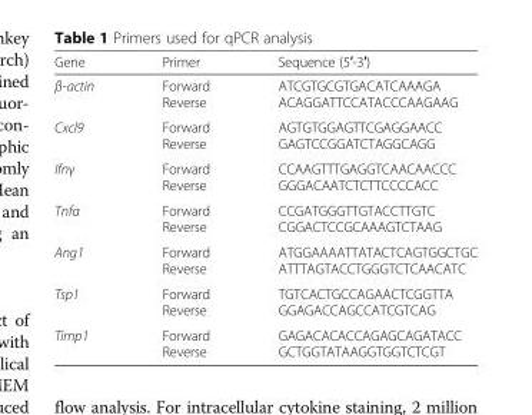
<table><thead><tr><td>Gene</td><td>Primer</td><td>Sequence (5′-3′)</td></tr></thead><tbody><tr><td>β-actin</td><td>Forward Reverse</td><td>ATCGTGCGTGACATCAAAGA ACAGGATTCCATACCCAAGAAG</td></tr><tr><td>Cxcl9</td><td>Forward Reverse</td><td>AGTGTGGAGTTCGAGGAACC GAGTCCGGATCTAGGCAGG</td></tr><tr><td>Ifnγ</td><td>Forward Reverse</td><td>CCAAGTTTGAGGTCAACAACCC GGGACAATCTCTTCCCCACC</td></tr><tr><td>Tnfα</td><td>Forward Reverse</td><td>CCGATGGGTTGTACCTTGTC CGGACTCCGCAAAGTCTAAG</td></tr><tr><td>Ang1</td><td>Forward Reverse</td><td>ATGGAAAATTATACTCAGTGGCTGC ATTTAGTACCTGGGTCTCAACATC</td></tr><tr><td>Tsp1</td><td>Forward Reverse</td><td>TGTCACTGCCAGAACTCGGTTA GGAGACCAGCCATCGTCAG</td></tr><tr><td>Timp1</td><td>Forward Reverse</td><td>GAGACACACCAGAGCAGATACC GCTGGTATAAGGTGGTCTCGT</td></tr></tbody></table>